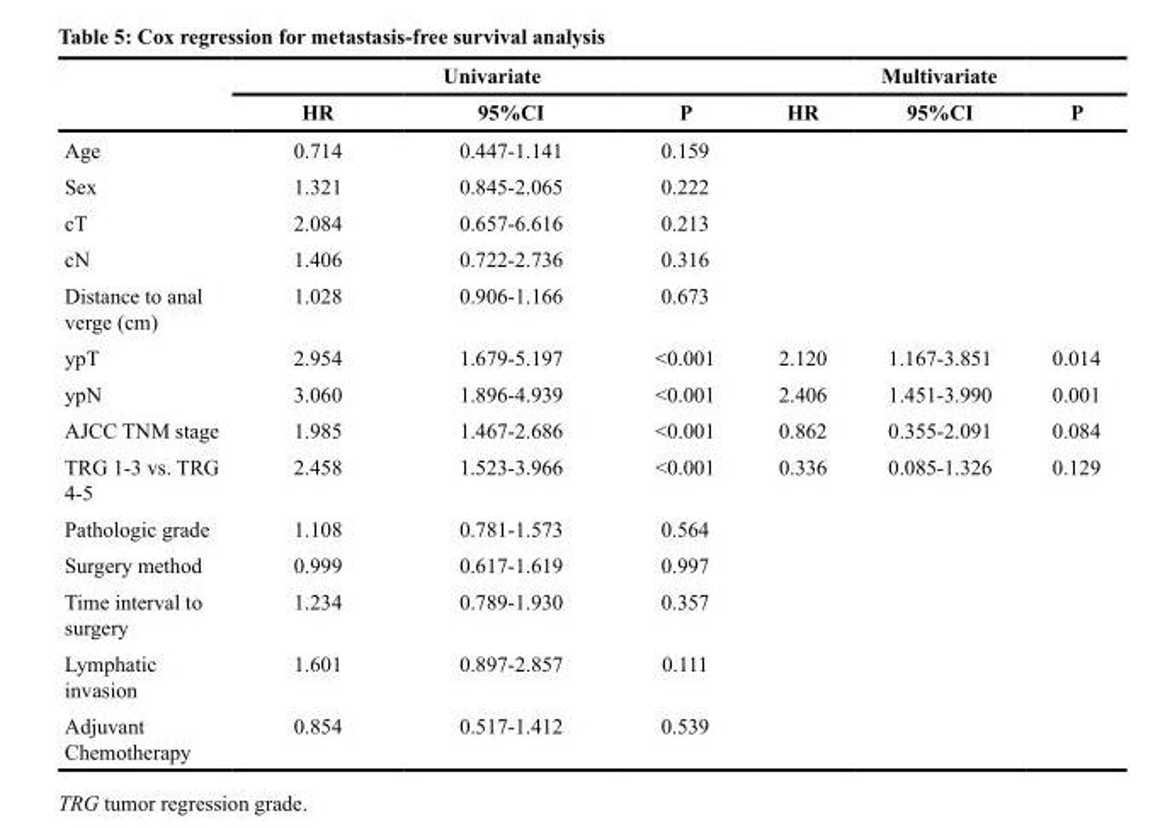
<table><thead><tr><td rowspan="2"></td><td colspan="3">Univariate</td><td colspan="3">Multivariate</td></tr><tr><td>HR</td><td>95%CI</td><td>P</td><td>HR</td><td>95%CI</td><td>P</td></tr></thead><tbody><tr><td>Age</td><td>0.714</td><td>0.447-1.141</td><td>0.159</td><td></td><td></td><td></td></tr><tr><td>Sex</td><td>1.321</td><td>0.845-2.065</td><td>0.222</td><td></td><td></td><td></td></tr><tr><td>cT</td><td>2.084</td><td>0.657-6.616</td><td>0.213</td><td></td><td></td><td></td></tr><tr><td>cN</td><td>1.406</td><td>0.722-2.736</td><td>0.316</td><td></td><td></td><td></td></tr><tr><td>Distance to anal verge (cm)</td><td>1.028</td><td>0.906-1.166</td><td>0.673</td><td></td><td></td><td></td></tr><tr><td>ypT</td><td>2.954</td><td>1.679-5.197</td><td>&lt;0.001</td><td>2.120</td><td>1.167-3.851</td><td>0.014</td></tr><tr><td>ypN</td><td>3.060</td><td>1.896-4.939</td><td>&lt;0.001</td><td>2.406</td><td>1.451-3.990</td><td>0.001</td></tr><tr><td>AJCC TNM stage</td><td>1.985</td><td>1.467-2.686</td><td>&lt;0.001</td><td>0.862</td><td>0.355-2.091</td><td>0.084</td></tr><tr><td>TRG 1-3 vs. TRG 4-5</td><td>2.458</td><td>1.523-3.966</td><td>&lt;0.001</td><td>0.336</td><td>0.085-1.326</td><td>0.129</td></tr><tr><td>Pathologic grade</td><td>1.108</td><td>0.781-1.573</td><td>0.564</td><td></td><td></td><td></td></tr><tr><td>Surgery method</td><td>0.999</td><td>0.617-1.619</td><td>0.997</td><td></td><td></td><td></td></tr><tr><td>Time interval to surgery</td><td>1.234</td><td>0.789-1.930</td><td>0.357</td><td></td><td></td><td></td></tr><tr><td>Lymphatic invasion</td><td>1.601</td><td>0.897-2.857</td><td>0.111</td><td></td><td></td><td></td></tr><tr><td>Adjuvant Chemotherapy</td><td>0.854</td><td>0.517-1.412</td><td>0.539</td><td></td><td></td><td></td></tr></tbody></table>